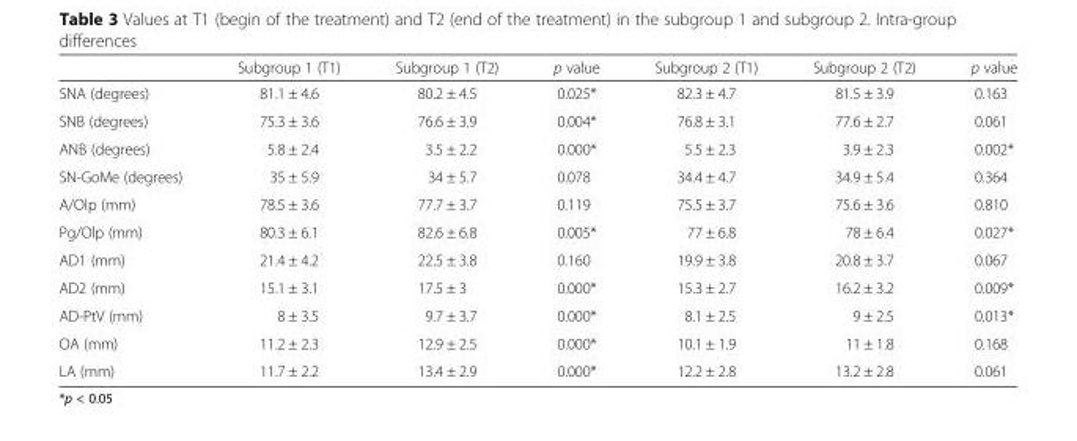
<table><thead><tr><td></td><td>Subgroup 1 (T1)</td><td>Subgroup 1 (T2)</td><td>p value</td><td>Subgroup 2 (T1)</td><td>Subgroup 2 (T2)</td><td>p value</td></tr></thead><tbody><tr><td>SNA (degrees)</td><td>81.1 ± 4.6</td><td>80.2 ± 4.5</td><td>0.025*</td><td>82.3 ± 4.7</td><td>81.5 ± 3.9</td><td>0.163</td></tr><tr><td>SNB (degrees)</td><td>75.3 ± 3.6</td><td>76.6 ± 3.9</td><td>0.004*</td><td>76.8 ± 3.1</td><td>77.6 ± 2.7</td><td>0.061</td></tr><tr><td>ANB (degrees)</td><td>5.8 ± 2.4</td><td>3.5 ± 2.2</td><td>0.000*</td><td>5.5 ± 2.3</td><td>3.9 ± 2.3</td><td>0.002*</td></tr><tr><td>SN-GoMe (degrees)</td><td>35 ± 5.9</td><td>34 ± 5.7</td><td>0.078</td><td>34.4 ± 4.7</td><td>34.9 ± 5.4</td><td>0.364</td></tr><tr><td>A/Olp (mm)</td><td>78.5 ± 3.6</td><td>77.7 ± 3.7</td><td>0.119</td><td>75.5 ± 3.7</td><td>75.6 ± 3.6</td><td>0.810</td></tr><tr><td>Pg/Olp (mm)</td><td>80.3 ± 6.1</td><td>82.6 ± 6.8</td><td>0.005*</td><td>77 ± 6.8</td><td>78 ± 6.4</td><td>0.027*</td></tr><tr><td>AD1 (mm)</td><td>21.4 ± 4.2</td><td>22.5 ± 3.8</td><td>0.160</td><td>19.9 ± 3.8</td><td>20.8 ± 3.7</td><td>0.067</td></tr><tr><td>AD2 (mm)</td><td>15.1 ± 3.1</td><td>17.5 ± 3</td><td>0.000*</td><td>15.3 ± 2.7</td><td>16.2 ± 3.2</td><td>0.009*</td></tr><tr><td>AD-PtV (mm)</td><td>8 ± 3.5</td><td>9.7 ± 3.7</td><td>0.000*</td><td>8.1 ± 2.5</td><td>9 ± 2.5</td><td>0.013*</td></tr><tr><td>OA (mm)</td><td>11.2 ± 2.3</td><td>12.9 ± 2.5</td><td>0.000*</td><td>10.1 ± 1.9</td><td>11 ± 1.8</td><td>0.168</td></tr><tr><td>LA (mm)</td><td>11.7 ± 2.2</td><td>13.4 ± 2.9</td><td>0.000*</td><td>12.2 ± 2.8</td><td>13.2 ± 2.8</td><td>0.061</td></tr></tbody></table>